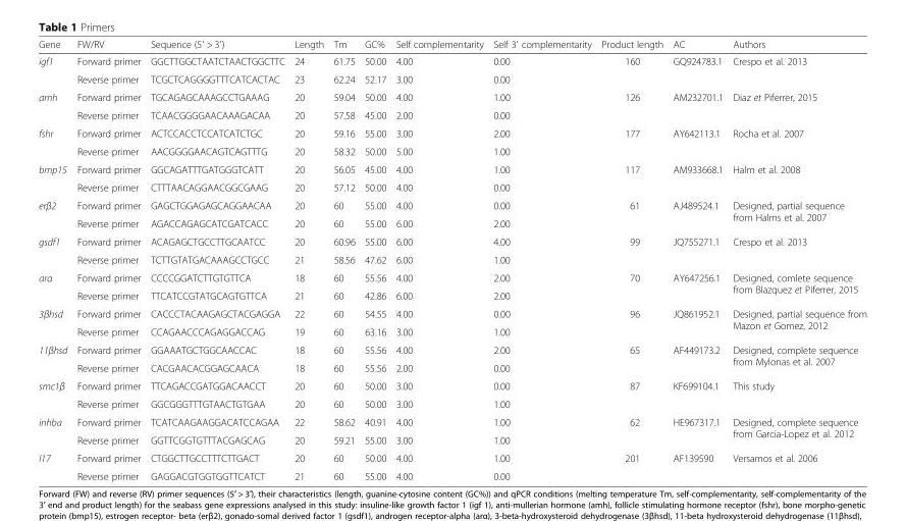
<table><thead><tr><td>Gene</td><td>FW/RV</td><td>Sequence (5′ &gt; 3′)</td><td>Length</td><td>Tm</td><td>GC%</td><td>Self complementarity</td><td>Self 3′ complementarity</td><td>Product length</td><td>AC</td><td>Authors</td></tr></thead><tbody><tr><td rowspan="2">igf1</td><td>Forward primer</td><td>GGCTTGGCTAATCTAACTGGCTTC</td><td>24</td><td>61.75</td><td>50.00</td><td>4.00</td><td>0.00</td><td rowspan="2">160</td><td rowspan="2">GQ924783.1</td><td rowspan="2">Crespo et al. 2013</td></tr><tr><td>Reverse primer</td><td>TCGCTCAGGGGTTTCATCACTAC</td><td>23</td><td>62.24</td><td>52.17</td><td>3.00</td><td>0.00</td></tr><tr><td rowspan="2">amh</td><td>Forward primer</td><td>TGCAGAGCAAAGCCTGAAAG</td><td>20</td><td>59.04</td><td>50.00</td><td>4.00</td><td>1.00</td><td rowspan="2">126</td><td rowspan="2">AM232701.1</td><td rowspan="2">Diaz et Piferrer, 2015</td></tr><tr><td>Reverse primer</td><td>TCAACGGGGAACAAAGACAA</td><td>20</td><td>57.58</td><td>45.00</td><td>2.00</td><td>0.00</td></tr><tr><td rowspan="2">fshr</td><td>Forward primer</td><td>ACTCCACCTCCATCATCTGC</td><td>20</td><td>59.16</td><td>55.00</td><td>3.00</td><td>2.00</td><td rowspan="2">177</td><td rowspan="2">AY642113.1</td><td rowspan="2">Rocha et al. 2007</td></tr><tr><td>Reverse primer</td><td>AACGGGGAACAGTCAGTTTG</td><td>20</td><td>58.32</td><td>50.00</td><td>5.00</td><td>1.00</td></tr><tr><td rowspan="2">bmp15</td><td>Forward primer</td><td>GGCAGATTTGATGGGTCATT</td><td>20</td><td>56.05</td><td>45.00</td><td>4.00</td><td>1.00</td><td rowspan="2">117</td><td rowspan="2">AM933668.1</td><td rowspan="2">Halm et al. 2008</td></tr><tr><td>Reverse primer</td><td>CTTTAACAGGAACGGCGAAG</td><td>20</td><td>57.12</td><td>50.00</td><td>4.00</td><td>0.00</td></tr><tr><td rowspan="2">erβ2</td><td>Forward primer</td><td>GAGCTGGAGAGCAGGAACAA</td><td>20</td><td>60</td><td>55.00</td><td>4.00</td><td>0.00</td><td rowspan="2">61</td><td rowspan="2">AJ489524.1</td><td rowspan="2">Designed, partial sequence from Halms et al. 2007</td></tr><tr><td>Reverse primer</td><td>AGACCAGAGCATCGATCACC</td><td>20</td><td>60</td><td>55.00</td><td>6.00</td><td>2.00</td></tr><tr><td rowspan="2">gsdf1</td><td>Forward primer</td><td>ACAGAGCTGCCTTGCAATCC</td><td>20</td><td>60.96</td><td>55.00</td><td>6.00</td><td>4.00</td><td rowspan="2">99</td><td rowspan="2">JQ755271.1</td><td rowspan="2">Crespo et al. 2013</td></tr><tr><td>Reverse primer</td><td>TCTTGTATGACAAAGCCTGCC</td><td>21</td><td>58.56</td><td>47.62</td><td>6.00</td><td>1.00</td></tr><tr><td rowspan="2">arα</td><td>Forward primer</td><td>CCCCGGATCTTGTGTTCA</td><td>18</td><td>60</td><td>55.56</td><td>4.00</td><td>2.00</td><td rowspan="2">70</td><td rowspan="2">AY647256.1</td><td rowspan="2">Designed, comlete sequence from Blazquez et Piferrer, 2015</td></tr><tr><td>Reverse primer</td><td>TTCATCCGTATGCAGTGTTCA</td><td>21</td><td>60</td><td>42.86</td><td>6.00</td><td>2.00</td></tr><tr><td rowspan="2">3βhsd</td><td>Forward primer</td><td>CACCCTACAAGAGCTACGAGGA</td><td>22</td><td>60</td><td>54.55</td><td>4.00</td><td>0.00</td><td rowspan="2">96</td><td rowspan="2">JQ861952.1</td><td rowspan="2">Designed, partial sequence from Mazon et Gomez, 2012</td></tr><tr><td>Reverse primer</td><td>CCAGAACCCAGAGGACCAG</td><td>19</td><td>60</td><td>63.16</td><td>3.00</td><td>1.00</td></tr><tr><td rowspan="2">11βhsd</td><td>Forward primer</td><td>GGAAATGCTGGCAACCAC</td><td>18</td><td>60</td><td>55.56</td><td>4.00</td><td>2.00</td><td rowspan="2">65</td><td rowspan="2">AF449173.2</td><td rowspan="2">Designed, complete sequence from Mylonas et al. 2007</td></tr><tr><td>Reverse primer</td><td>CACGAACACGGAGCAACA</td><td>18</td><td>60</td><td>55.56</td><td>2.00</td><td>0.00</td></tr><tr><td rowspan="2">smc1β</td><td>Forward primer</td><td>TTCAGACCGATGGACAACCT</td><td>20</td><td>60</td><td>50.00</td><td>3.00</td><td>0.00</td><td rowspan="2">87</td><td rowspan="2">KF699104.1</td><td rowspan="2">This study</td></tr><tr><td>Reverse primer</td><td>GGCGGGTTTGTAACTGTGAA</td><td>20</td><td>60</td><td>50.00</td><td>3.00</td><td>1.00</td></tr><tr><td rowspan="2">inhba</td><td>Forward primer</td><td>TCATCAAGAAGGACATCCAGAA</td><td>22</td><td>58.62</td><td>40.91</td><td>4.00</td><td>1.00</td><td rowspan="2">62</td><td rowspan="2">HE967317.1</td><td rowspan="2">Designed, complete sequence from Garcia-Lopez et al. 2012</td></tr><tr><td>Reverse primer</td><td>GGTTCGGTGTTTACGAGCAG</td><td>20</td><td>59.21</td><td>55.00</td><td>3.00</td><td>1.00</td></tr><tr><td rowspan="2">l17</td><td>Forward primer</td><td>CTGGCTTGCCTTTCTTGACT</td><td>20</td><td>60</td><td>50.00</td><td>4.00</td><td>1.00</td><td rowspan="2">201</td><td rowspan="2">AF139590</td><td rowspan="2">Versamos et al. 2006</td></tr><tr><td>Reverse primer</td><td>GAGGACGTGGTGGTTCATCT</td><td>21</td><td>60</td><td>55.00</td><td>4.00</td><td>0.00</td></tr></tbody></table>